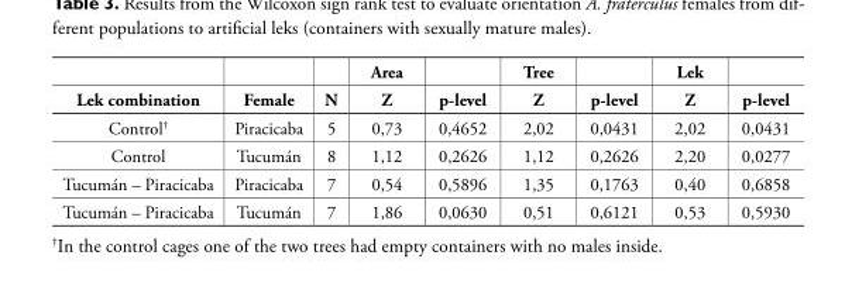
<table><thead><tr><td rowspan="2">Lek combination</td><td rowspan="2">Female</td><td rowspan="2">N</td><td rowspan="2">Area Z</td><td rowspan="2">p-level</td><td rowspan="2">Tree Z</td><td rowspan="2">p-level</td><td rowspan="2">Lek Z</td><td rowspan="2">p-level</td></tr><tr></tr></thead><tbody><tr><td>Control<sup>†</sup></td><td>Piracicaba</td><td>5</td><td>0,73</td><td>0,4652</td><td>2,02</td><td>0,0431</td><td>2,02</td><td>0,0431</td></tr><tr><td>Control</td><td>Tucumán</td><td>8</td><td>1,12</td><td>0,2626</td><td>1,12</td><td>0,2626</td><td>2,20</td><td>0,0277</td></tr><tr><td>Tucumán – Piracicaba</td><td>Piracicaba</td><td>7</td><td>0,54</td><td>0,5896</td><td>1,35</td><td>0,1763</td><td>0,40</td><td>0,6858</td></tr><tr><td>Tucumán – Piracicaba</td><td>Tucumán</td><td>7</td><td>1,86</td><td>0,0630</td><td>0,51</td><td>0,6121</td><td>0,53</td><td>0,5930</td></tr></tbody></table>